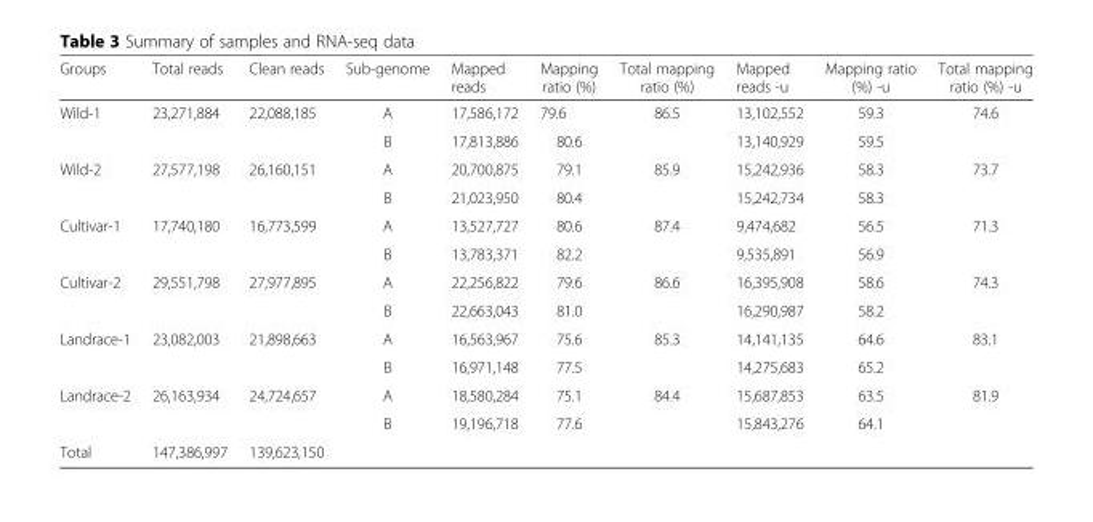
<table><thead><tr><td>Groups</td><td>Total reads</td><td>Clean reads</td><td>Sub-genome</td><td>Mapped reads</td><td>Mapping ratio (%)</td><td>Total mapping ratio (%)</td><td>Mapped reads -u</td><td>Mapping ratio (%) -u</td><td>Total mapping ratio (%) -u</td></tr></thead><tbody><tr><td rowspan="2">Wild-1</td><td rowspan="2">23,271,884</td><td rowspan="2">22,088,185</td><td>A</td><td>17,586,172</td><td>79.6</td><td rowspan="2">86.5</td><td>13,102,552</td><td>59.3</td><td rowspan="2">74.6</td></tr><tr><td>B</td><td>17,813,886</td><td>80.6</td><td>13,140,929</td><td>59.5</td></tr><tr><td rowspan="2">Wild-2</td><td rowspan="2">27,577,198</td><td rowspan="2">26,160,151</td><td>A</td><td>20,700,875</td><td>79.1</td><td rowspan="2">85.9</td><td>15,242,936</td><td>58.3</td><td rowspan="2">73.7</td></tr><tr><td>B</td><td>21,023,950</td><td>80.4</td><td>15,242,734</td><td>58.3</td></tr><tr><td rowspan="2">Cultivar-1</td><td rowspan="2">17,740,180</td><td rowspan="2">16,773,599</td><td>A</td><td>13,527,727</td><td>80.6</td><td rowspan="2">87.4</td><td>9,474,682</td><td>56.5</td><td rowspan="2">71.3</td></tr><tr><td>B</td><td>13,783,371</td><td>82.2</td><td>9,535,891</td><td>56.9</td></tr><tr><td rowspan="2">Cultivar-2</td><td rowspan="2">29,551,798</td><td rowspan="2">27,977,895</td><td>A</td><td>22,256,822</td><td>79.6</td><td rowspan="2">86.6</td><td>16,395,908</td><td>58.6</td><td rowspan="2">74.3</td></tr><tr><td>B</td><td>22,663,043</td><td>81.0</td><td>16,290,987</td><td>58.2</td></tr><tr><td rowspan="2">Landrace-1</td><td rowspan="2">23,082,003</td><td rowspan="2">21,898,663</td><td>A</td><td>16,563,967</td><td>75.6</td><td rowspan="2">85.3</td><td>14,141,135</td><td>64.6</td><td rowspan="2">83.1</td></tr><tr><td>B</td><td>16,971,148</td><td>77.5</td><td>14,275,683</td><td>65.2</td></tr><tr><td rowspan="2">Landrace-2</td><td rowspan="2">26,163,934</td><td rowspan="2">24,724,657</td><td>A</td><td>18,580,284</td><td>75.1</td><td rowspan="2">84.4</td><td>15,687,853</td><td>63.5</td><td rowspan="2">81.9</td></tr><tr><td>B</td><td>19,196,718</td><td>77.6</td><td>15,843,276</td><td>64.1</td></tr><tr><td>Total</td><td>147,386,997</td><td>139,623,150</td><td></td><td></td><td></td><td></td><td></td><td></td><td></td></tr></tbody></table>